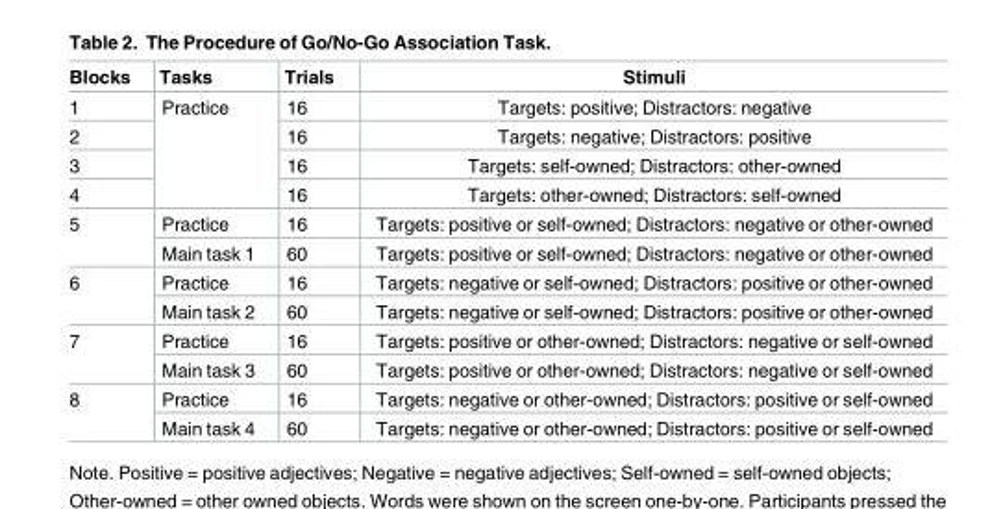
<table><thead><tr><td>Blocks</td><td>Tasks</td><td>Trials</td><td>Stimuli</td></tr></thead><tbody><tr><td>1</td><td rowspan="4">Practice</td><td>16</td><td>Targets: positive; Distractors: negative</td></tr><tr><td>2</td><td>16</td><td>Targets: negative; Distractors: positive</td></tr><tr><td>3</td><td>16</td><td>Targets: self-owned; Distractors: other-owned</td></tr><tr><td>4</td><td>16</td><td>Targets: other-owned; Distractors: self-owned</td></tr><tr><td rowspan="2">5</td><td>Practice</td><td>16</td><td>Targets: positive or self-owned; Distractors: negative or other-owned</td></tr><tr><td>Main task 1</td><td>60</td><td>Targets: positive or self-owned; Distractors: negative or other-owned</td></tr><tr><td rowspan="2">6</td><td>Practice</td><td>16</td><td>Targets: negative or self-owned; Distractors: positive or other-owned</td></tr><tr><td>Main task 2</td><td>60</td><td>Targets: negative or self-owned; Distractors: positive or other-owned</td></tr><tr><td rowspan="2">7</td><td>Practice</td><td>16</td><td>Targets: positive or other-owned; Distractors: negative or self-owned</td></tr><tr><td>Main task 3</td><td>60</td><td>Targets: positive or other-owned; Distractors: negative or self-owned</td></tr><tr><td rowspan="2">8</td><td>Practice</td><td>16</td><td>Targets: negative or other-owned; Distractors: positive or self-owned</td></tr><tr><td>Main task 4</td><td>60</td><td>Targets: negative or other-owned; Distractors: positive or self-owned</td></tr></tbody></table>